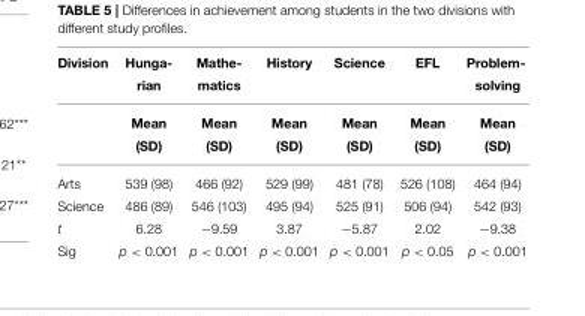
<table><thead><tr><td>Division</td><td>Hunga- rian</td><td>Mathe- matics</td><td>History</td><td>Science</td><td>EFL</td><td>Problem- solving</td></tr></thead><tbody><tr><td></td><td>Mean</td><td>Mean</td><td>Mean</td><td>Mean</td><td>Mean</td><td>Mean</td></tr><tr><td></td><td>(SD)</td><td>(SD)</td><td>(SD)</td><td>(SD)</td><td>(SD)</td><td>(SD)</td></tr><tr><td>Arts</td><td>539 (98)</td><td>466 (92)</td><td>529 (99)</td><td>481 (78)</td><td>526 (108)</td><td>464 (94)</td></tr><tr><td>Science</td><td>486 (89)</td><td>546 (103)</td><td>495 (94)</td><td>525 (91)</td><td>506 (94)</td><td>542 (93)</td></tr><tr><td>t</td><td>6.28</td><td>−9.59</td><td>3.87</td><td>−5.87</td><td>2.02</td><td>−9.38</td></tr><tr><td>Sig</td><td>p &lt; 0.001</td><td>p &lt; 0.001</td><td>p &lt; 0.001</td><td>p &lt; 0.001</td><td>p &lt; 0.05</td><td>p &lt; 0.001</td></tr></tbody></table>